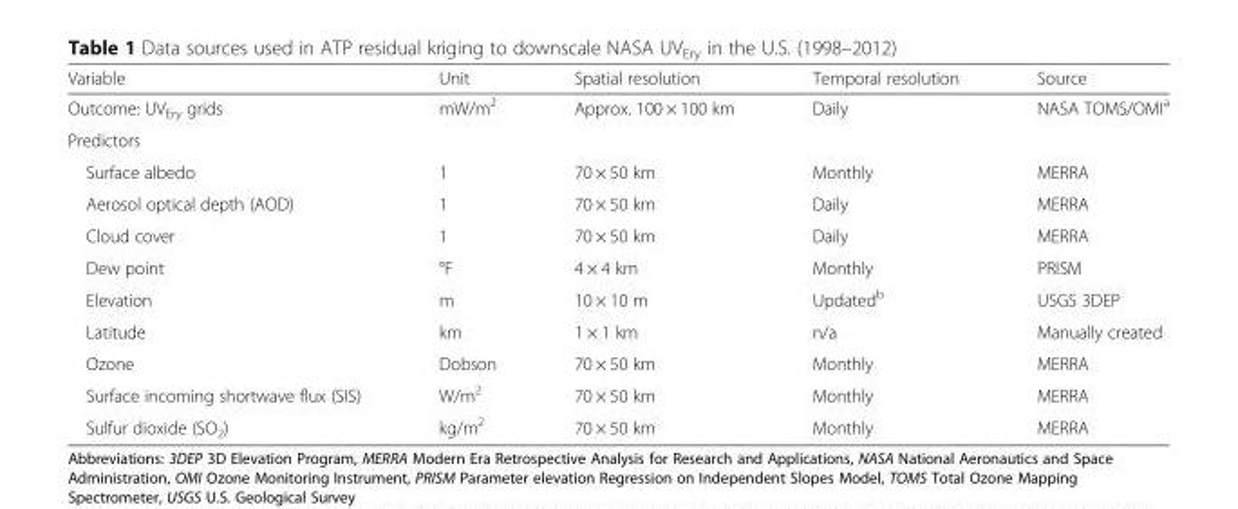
<table><thead><tr><td>Variable</td><td>Unit</td><td>Spatial resolution</td><td>Temporal resolution</td><td>Source</td></tr></thead><tbody><tr><td>Outcome: UV<sub>Ery</sub> grids</td><td>mW/m<sup>2</sup></td><td>Approx. 100 × 100 km</td><td>Daily</td><td>NASA TOMS/OMI<sup>a</sup></td></tr><tr><td colspan="5">Predictors</td></tr><tr><td>Surface albedo</td><td>1</td><td>70 × 50 km</td><td>Monthly</td><td>MERRA</td></tr><tr><td>Aerosol optical depth (AOD)</td><td>1</td><td>70 × 50 km</td><td>Daily</td><td>MERRA</td></tr><tr><td>Cloud cover</td><td>1</td><td>70 × 50 km</td><td>Daily</td><td>MERRA</td></tr><tr><td>Dew point</td><td>°F</td><td>4 × 4 km</td><td>Monthly</td><td>PRISM</td></tr><tr><td>Elevation</td><td>m</td><td>10 × 10 m</td><td>Updated<sup>b</sup></td><td>USGS 3DEP</td></tr><tr><td>Latitude</td><td>km</td><td>1 × 1 km</td><td>n/a</td><td>Manually created</td></tr><tr><td>Ozone</td><td>Dobson</td><td>70 × 50 km</td><td>Monthly</td><td>MERRA</td></tr><tr><td>Surface incoming shortwave flux (SIS)</td><td>W/m<sup>2</sup></td><td>70 × 50 km</td><td>Monthly</td><td>MERRA</td></tr><tr><td>Sulfur dioxide (SO<sub>2</sub>)</td><td>kg/m<sup>2</sup></td><td>70 × 50 km</td><td>Monthly</td><td>MERRA</td></tr></tbody></table>